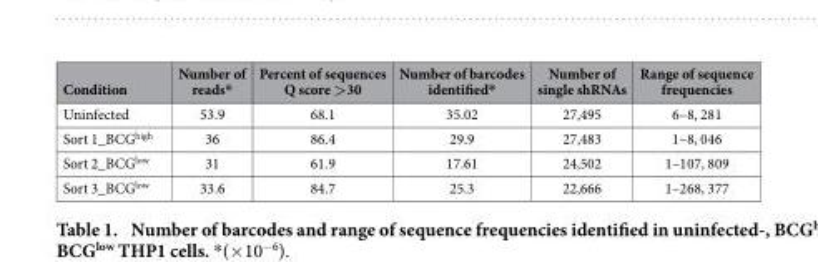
<table><thead><tr><td>Condition</td><td>Number of reads*</td><td>Percent of sequences Q score &gt;30</td><td>Number of barcodes identified*</td><td>Number of single shRNAs</td><td>Range of sequence frequencies</td></tr></thead><tbody><tr><td>Uninfected</td><td>53.9</td><td>68.1</td><td>35.02</td><td>27,495</td><td>6–8, 281</td></tr><tr><td>Sort 1_BCG<sup>high</sup></td><td>36</td><td>86.4</td><td>29.9</td><td>27,483</td><td>1–8, 046</td></tr><tr><td>Sort 2_BCG<sup>low</sup></td><td>31</td><td>61.9</td><td>17.61</td><td>24,502</td><td>1–107, 809</td></tr><tr><td>Sort 3_BCG<sup>low</sup></td><td>33.6</td><td>84.7</td><td>25.3</td><td>22,666</td><td>1–268, 377</td></tr></tbody></table>